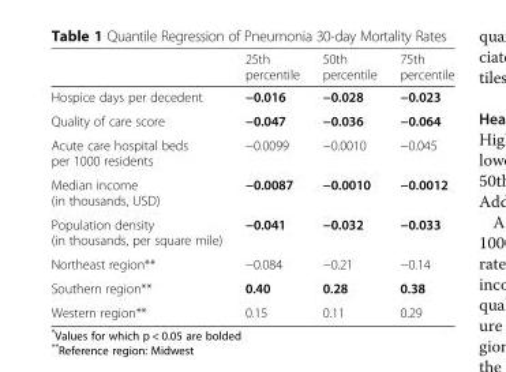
<table><thead><tr><td></td><td>25th percentile</td><td>50th percentile</td><td>75th percentile</td></tr></thead><tbody><tr><td>Hospice days per decedent</td><td>−0.016</td><td>−0.028</td><td>−0.023</td></tr><tr><td>Quality of care score</td><td>−0.047</td><td>−0.036</td><td>−0.064</td></tr><tr><td>Acute care hospital beds per 1000 residents</td><td>−0.0099</td><td>−0.0010</td><td>−0.045</td></tr><tr><td>Median income (in thousands, USD)</td><td>−0.0087</td><td>−0.0010</td><td>−0.0012</td></tr><tr><td>Population density (in thousands, per square mile)</td><td>−0.041</td><td>−0.032</td><td>−0.033</td></tr><tr><td>Northeast region**</td><td>−0.084</td><td>−0.21</td><td>−0.14</td></tr><tr><td>Southern region**</td><td>0.40</td><td>0.28</td><td>0.38</td></tr><tr><td>Western region**</td><td>0.15</td><td>0.11</td><td>0.29</td></tr></tbody></table>